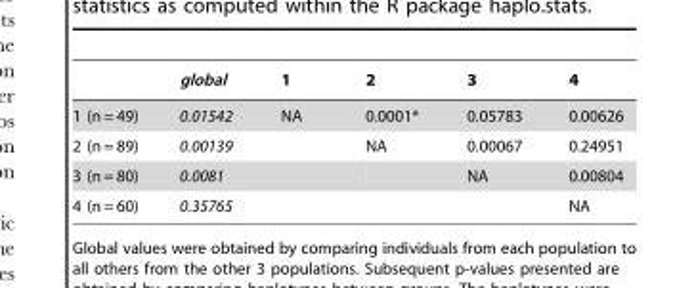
<table><thead><tr><td></td><td>global</td><td>1</td><td>2</td><td>3</td><td>4</td></tr></thead><tbody><tr><td>1 (n = 49)</td><td>0.01542</td><td>NA</td><td>0.0001*</td><td>0.05783</td><td>0.00626</td></tr><tr><td>2 (n = 89)</td><td>0.00139</td><td></td><td>NA</td><td>0.00067</td><td>0.24951</td></tr><tr><td>3 (n = 80)</td><td>0.0081</td><td></td><td></td><td>NA</td><td>0.00804</td></tr><tr><td>4 (n = 60)</td><td>0.35765</td><td></td><td></td><td></td><td>NA</td></tr></tbody></table>